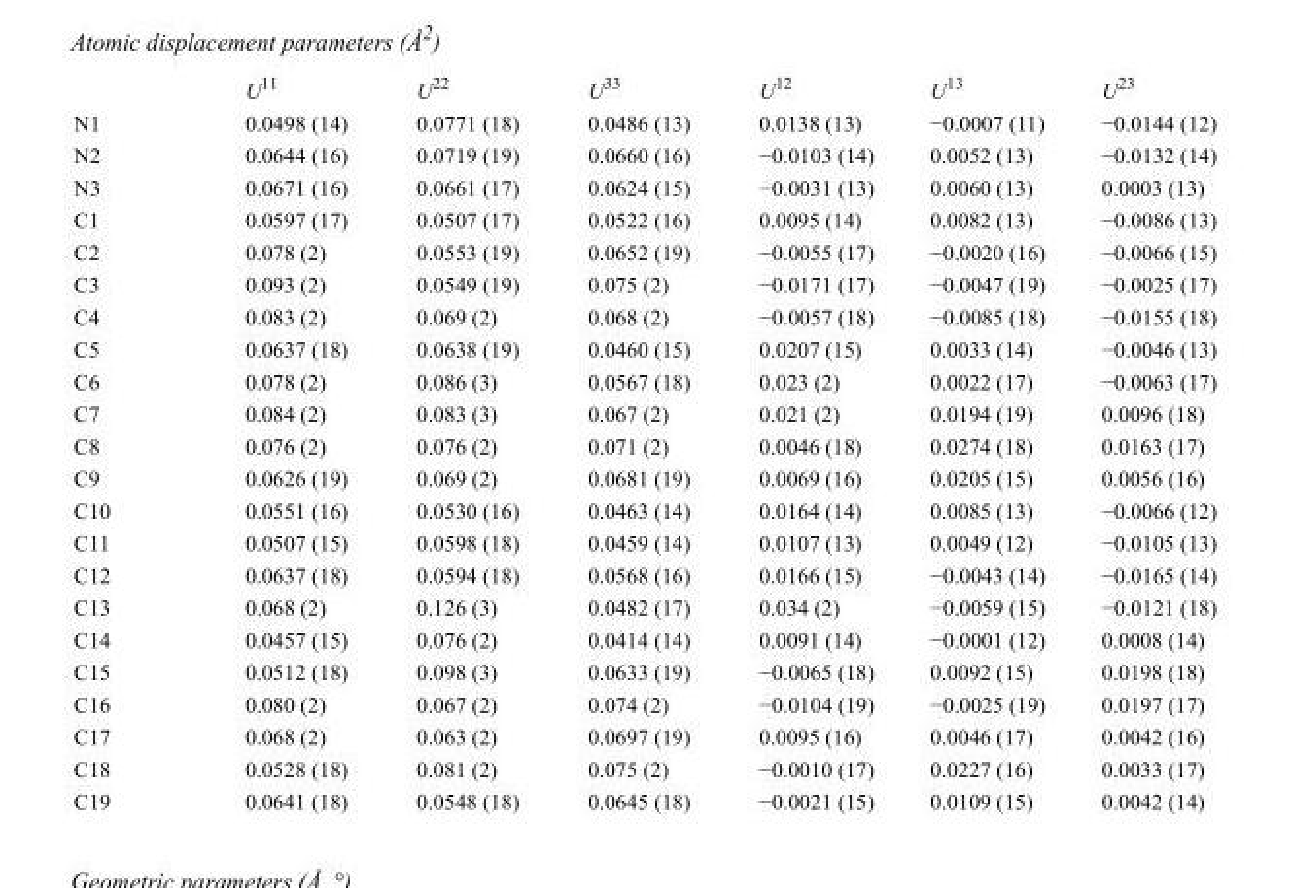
<table><thead><tr><td></td><td>U<sup>11</sup></td><td>U<sup>22</sup></td><td>U<sup>33</sup></td><td>U<sup>12</sup></td><td>U<sup>13</sup></td><td>U<sup>23</sup></td></tr></thead><tbody><tr><td>N1</td><td>0.0498 (14)</td><td>0.0771 (18)</td><td>0.0486 (13)</td><td>0.0138 (13)</td><td>−0.0007 (11)</td><td>−0.0144 (12)</td></tr><tr><td>N2</td><td>0.0644 (16)</td><td>0.0719 (19)</td><td>0.0660 (16)</td><td>−0.0103 (14)</td><td>0.0052 (13)</td><td>−0.0132 (14)</td></tr><tr><td>N3</td><td>0.0671 (16)</td><td>0.0661 (17)</td><td>0.0624 (15)</td><td>−0.0031 (13)</td><td>0.0060 (13)</td><td>0.0003 (13)</td></tr><tr><td>C1</td><td>0.0597 (17)</td><td>0.0507 (17)</td><td>0.0522 (16)</td><td>0.0095 (14)</td><td>0.0082 (13)</td><td>−0.0086 (13)</td></tr><tr><td>C2</td><td>0.078 (2)</td><td>0.0553 (19)</td><td>0.0652 (19)</td><td>−0.0055 (17)</td><td>−0.0020 (16)</td><td>−0.0066 (15)</td></tr><tr><td>C3</td><td>0.093 (2)</td><td>0.0549 (19)</td><td>0.075 (2)</td><td>−0.0171 (17)</td><td>−0.0047 (19)</td><td>−0.0025 (17)</td></tr><tr><td>C4</td><td>0.083 (2)</td><td>0.069 (2)</td><td>0.068 (2)</td><td>−0.0057 (18)</td><td>−0.0085 (18)</td><td>−0.0155 (18)</td></tr><tr><td>C5</td><td>0.0637 (18)</td><td>0.0638 (19)</td><td>0.0460 (15)</td><td>0.0207 (15)</td><td>0.0033 (14)</td><td>−0.0046 (13)</td></tr><tr><td>C6</td><td>0.078 (2)</td><td>0.086 (3)</td><td>0.0567 (18)</td><td>0.023 (2)</td><td>0.0022 (17)</td><td>−0.0063 (17)</td></tr><tr><td>C7</td><td>0.084 (2)</td><td>0.083 (3)</td><td>0.067 (2)</td><td>0.021 (2)</td><td>0.0194 (19)</td><td>0.0096 (18)</td></tr><tr><td>C8</td><td>0.076 (2)</td><td>0.076 (2)</td><td>0.071 (2)</td><td>0.0046 (18)</td><td>0.0274 (18)</td><td>0.0163 (17)</td></tr><tr><td>C9</td><td>0.0626 (19)</td><td>0.069 (2)</td><td>0.0681 (19)</td><td>0.0069 (16)</td><td>0.0205 (15)</td><td>0.0056 (16)</td></tr><tr><td>C10</td><td>0.0551 (16)</td><td>0.0530 (16)</td><td>0.0463 (14)</td><td>0.0164 (14)</td><td>0.0085 (13)</td><td>−0.0066 (12)</td></tr><tr><td>C11</td><td>0.0507 (15)</td><td>0.0598 (18)</td><td>0.0459 (14)</td><td>0.0107 (13)</td><td>0.0049 (12)</td><td>−0.0105 (13)</td></tr><tr><td>C12</td><td>0.0637 (18)</td><td>0.0594 (18)</td><td>0.0568 (16)</td><td>0.0166 (15)</td><td>−0.0043 (14)</td><td>−0.0165 (14)</td></tr><tr><td>C13</td><td>0.068 (2)</td><td>0.126 (3)</td><td>0.0482 (17)</td><td>0.034 (2)</td><td>−0.0059 (15)</td><td>−0.0121 (18)</td></tr><tr><td>C14</td><td>0.0457 (15)</td><td>0.076 (2)</td><td>0.0414 (14)</td><td>0.0091 (14)</td><td>−0.0001 (12)</td><td>0.0008 (14)</td></tr><tr><td>C15</td><td>0.0512 (18)</td><td>0.098 (3)</td><td>0.0633 (19)</td><td>−0.0065 (18)</td><td>0.0092 (15)</td><td>0.0198 (18)</td></tr><tr><td>C16</td><td>0.080 (2)</td><td>0.067 (2)</td><td>0.074 (2)</td><td>−0.0104 (19)</td><td>−0.0025 (19)</td><td>0.0197 (17)</td></tr><tr><td>C17</td><td>0.068 (2)</td><td>0.063 (2)</td><td>0.0697 (19)</td><td>0.0095 (16)</td><td>0.0046 (17)</td><td>0.0042 (16)</td></tr><tr><td>C18</td><td>0.0528 (18)</td><td>0.081 (2)</td><td>0.075 (2)</td><td>−0.0010 (17)</td><td>0.0227 (16)</td><td>0.0033 (17)</td></tr><tr><td>C19</td><td>0.0641 (18)</td><td>0.0548 (18)</td><td>0.0645 (18)</td><td>−0.0021 (15)</td><td>0.0109 (15)</td><td>0.0042 (14)</td></tr></tbody></table>